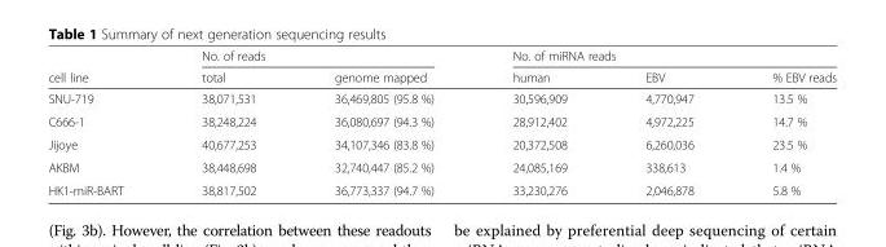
<table><thead><tr><td rowspan="2">cell line</td><td colspan="2">No. of reads</td><td colspan="3">No. of miRNA reads</td></tr><tr><td>total</td><td>genome mapped</td><td>human</td><td>EBV</td><td>% EBV reads</td></tr></thead><tbody><tr><td>SNU-719</td><td>38,071,531</td><td>36,469,805 (95.8 %)</td><td>30,596,909</td><td>4,770,947</td><td>13.5 %</td></tr><tr><td>C666-1</td><td>38,248,224</td><td>36,080,697 (94.3 %)</td><td>28,912,402</td><td>4,972,225</td><td>14.7 %</td></tr><tr><td>Jijoye</td><td>40,677,253</td><td>34,107,346 (83.8 %)</td><td>20,372,508</td><td>6,260,036</td><td>23.5 %</td></tr><tr><td>AKBM</td><td>38,448,698</td><td>32,740,447 (85.2 %)</td><td>24,085,169</td><td>338,613</td><td>1.4 %</td></tr><tr><td>HK1-miR-BART</td><td>38,817,502</td><td>36,773,337 (94.7 %)</td><td>33,230,276</td><td>2,046,878</td><td>5.8 %</td></tr></tbody></table>